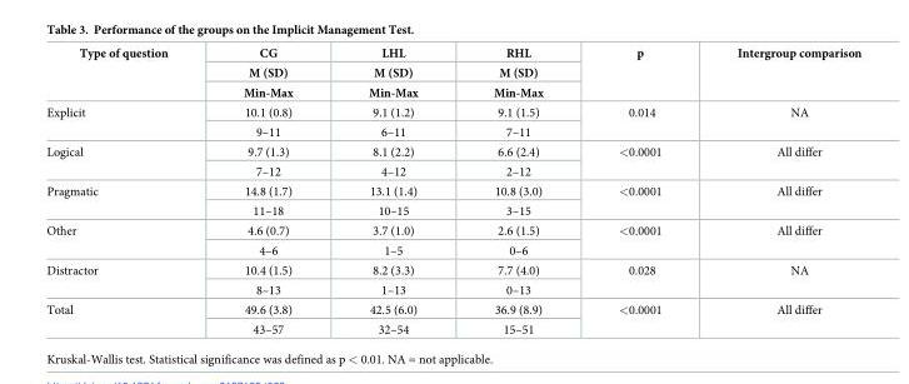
<table><thead><tr><td rowspan="3">Type of question</td><td rowspan="3">CG M (SD) Min-Max</td><td rowspan="3">LHL M (SD) Min-Max</td><td rowspan="3">RHL M (SD) Min-Max</td><td rowspan="3">p</td><td rowspan="3">Intergroup comparison</td></tr><tr></tr><tr></tr></thead><tbody><tr><td rowspan="2">Explicit</td><td>10.1 (0.8)</td><td>9.1 (1.2)</td><td>9.1 (1.5)</td><td rowspan="2">0.014</td><td rowspan="2">NA</td></tr><tr><td>9–11</td><td>6–11</td><td>7–11</td></tr><tr><td rowspan="2">Logical</td><td>9.7 (1.3)</td><td>8.1 (2.2)</td><td>6.6 (2.4)</td><td rowspan="2">&lt;0.0001</td><td rowspan="2">All differ</td></tr><tr><td>7–12</td><td>4–12</td><td>2–12</td></tr><tr><td rowspan="2">Pragmatic</td><td>14.8 (1.7)</td><td>13.1 (1.4)</td><td>10.8 (3.0)</td><td rowspan="2">&lt;0.0001</td><td rowspan="2">All differ</td></tr><tr><td>11–18</td><td>10–15</td><td>3–15</td></tr><tr><td rowspan="2">Other</td><td>4.6 (0.7)</td><td>3.7 (1.0)</td><td>2.6 (1.5)</td><td rowspan="2">&lt;0.0001</td><td rowspan="2">All differ</td></tr><tr><td>4–6</td><td>1–5</td><td>0–6</td></tr><tr><td rowspan="2">Distractor</td><td>10.4 (1.5)</td><td>8.2 (3.3)</td><td>7.7 (4.0)</td><td rowspan="2">0.028</td><td rowspan="2">NA</td></tr><tr><td>8–13</td><td>1–13</td><td>0–13</td></tr><tr><td rowspan="2">Total</td><td>49.6 (3.8)</td><td>42.5 (6.0)</td><td>36.9 (8.9)</td><td rowspan="2">&lt;0.0001</td><td rowspan="2">All differ</td></tr><tr><td>43–57</td><td>32–54</td><td>15–51</td></tr></tbody></table>